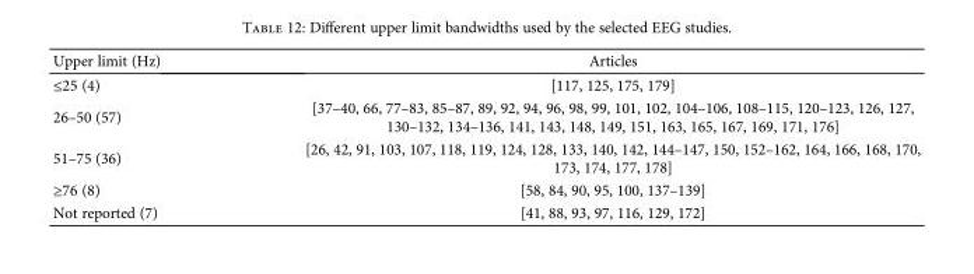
<table><thead><tr><td>Upper limit (Hz)</td><td>Articles</td></tr></thead><tbody><tr><td>≤25 (4)</td><td>[117, 125, 175, 179]</td></tr><tr><td>26–50 (57)</td><td>[37–40, 66, 77–83, 85–87, 89, 92, 94, 96, 98, 99, 101, 102, 104–106, 108–115, 120–123, 126, 127, 130–132, 134–136, 141, 143, 148, 149, 151, 163, 165, 167, 169, 171, 176]</td></tr><tr><td>51–75 (36)</td><td>[26, 42, 91, 103, 107, 118, 119, 124, 128, 133, 140, 142, 144–147, 150, 152–162, 164, 166, 168, 170, 173, 174, 177, 178]</td></tr><tr><td>≥76 (8)</td><td>[58, 84, 90, 95, 100, 137–139]</td></tr><tr><td>Not reported (7)</td><td>[41, 88, 93, 97, 116, 129, 172]</td></tr></tbody></table>